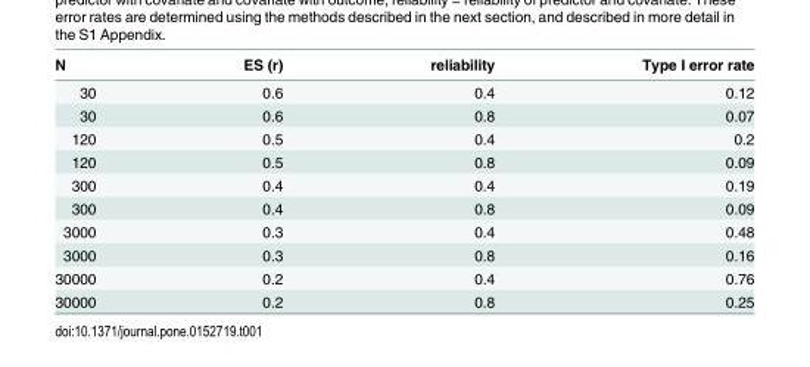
<table><thead><tr><td>N</td><td>ES (r)</td><td>reliability</td><td>Type I error rate</td></tr></thead><tbody><tr><td>30</td><td>0.6</td><td>0.4</td><td>0.12</td></tr><tr><td>30</td><td>0.6</td><td>0.8</td><td>0.07</td></tr><tr><td>120</td><td>0.5</td><td>0.4</td><td>0.2</td></tr><tr><td>120</td><td>0.5</td><td>0.8</td><td>0.09</td></tr><tr><td>300</td><td>0.4</td><td>0.4</td><td>0.19</td></tr><tr><td>300</td><td>0.4</td><td>0.8</td><td>0.09</td></tr><tr><td>3000</td><td>0.3</td><td>0.4</td><td>0.48</td></tr><tr><td>3000</td><td>0.3</td><td>0.8</td><td>0.16</td></tr><tr><td>30000</td><td>0.2</td><td>0.4</td><td>0.76</td></tr><tr><td>30000</td><td>0.2</td><td>0.8</td><td>0.25</td></tr></tbody></table>